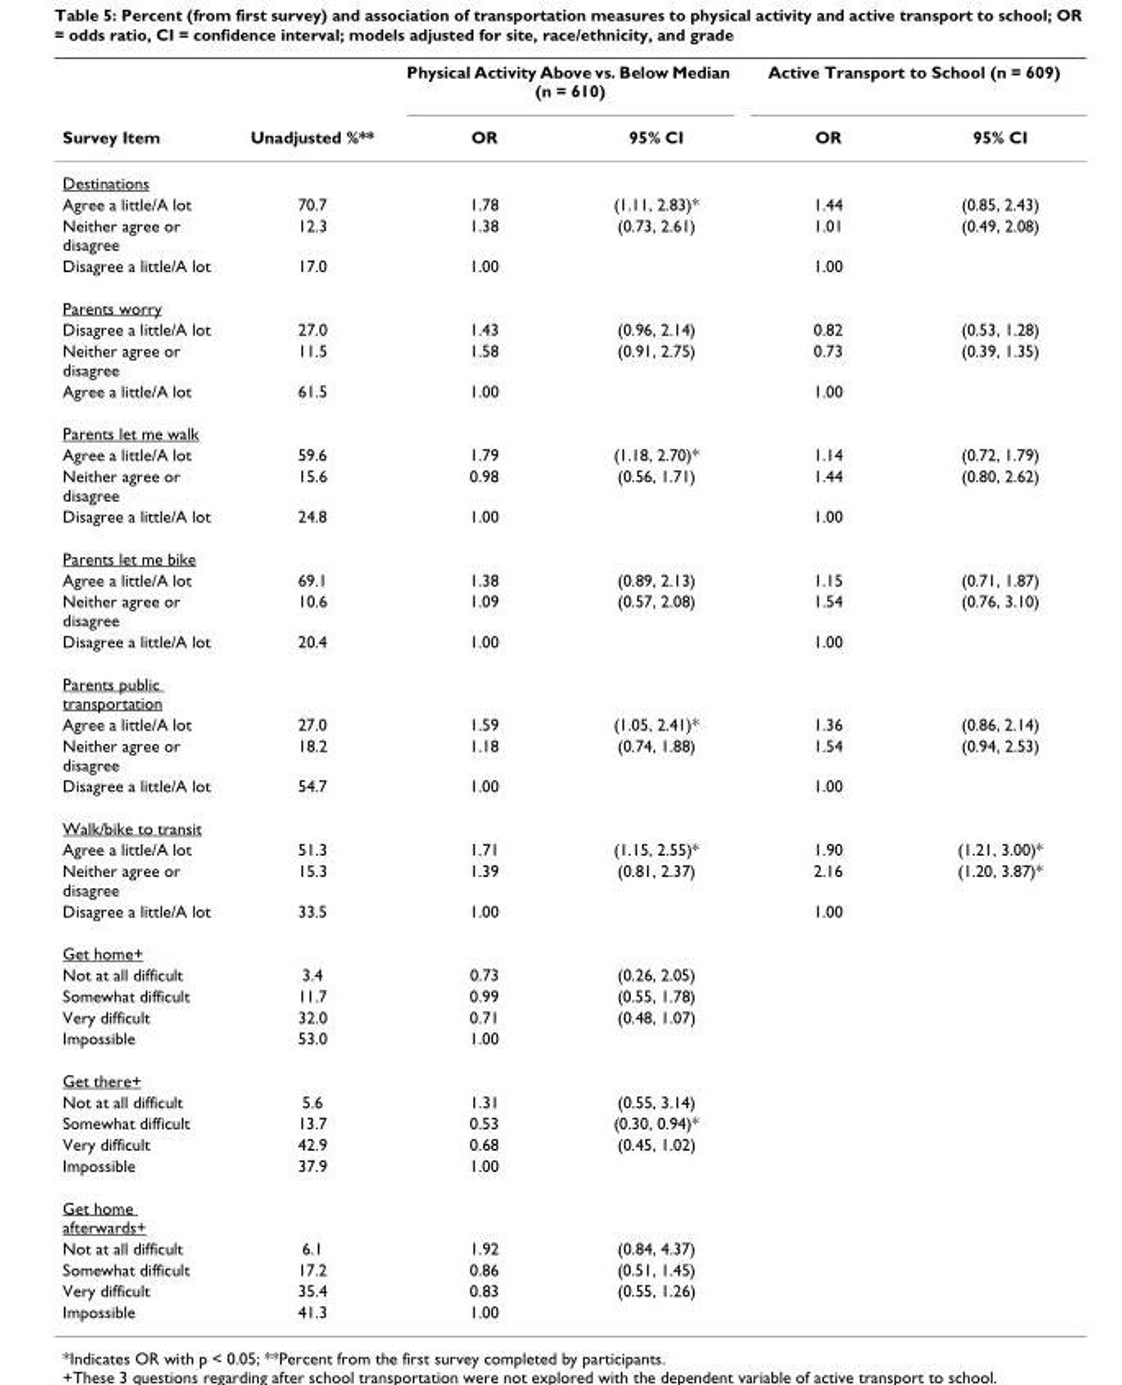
<table><thead><tr><td rowspan="2">Survey Item</td><td rowspan="2">Unadjusted %**</td><td colspan="2">Physical Activity Above vs. Below Median (n = 610)</td><td colspan="2">Active Transport to School (n = 609)</td></tr><tr><td>OR</td><td>95% CI</td><td>OR</td><td>95% CI</td></tr></thead><tbody><tr><td colspan="6">Destinations</td></tr><tr><td>Agree a little/A lot</td><td>70.7</td><td>1.78</td><td>(1.11, 2.83)*</td><td>1.44</td><td>(0.85, 2.43)</td></tr><tr><td>Neither agree or disagree</td><td>12.3</td><td>1.38</td><td>(0.73, 2.61)</td><td>1.01</td><td>(0.49, 2.08)</td></tr><tr><td>Disagree a little/A lot</td><td>17.0</td><td>1.00</td><td></td><td>1.00</td><td></td></tr><tr><td colspan="6">Parents worry</td></tr><tr><td>Disagree a little/A lot</td><td>27.0</td><td>1.43</td><td>(0.96, 2.14)</td><td>0.82</td><td>(0.53, 1.28)</td></tr><tr><td>Neither agree or disagree</td><td>11.5</td><td>1.58</td><td>(0.91, 2.75)</td><td>0.73</td><td>(0.39, 1.35)</td></tr><tr><td>Agree a little/A lot</td><td>61.5</td><td>1.00</td><td></td><td>1.00</td><td></td></tr><tr><td colspan="6">Parents let me walk</td></tr><tr><td>Agree a little/A lot</td><td>59.6</td><td>1.79</td><td>(1.18, 2.70)*</td><td>1.14</td><td>(0.72, 1.79)</td></tr><tr><td>Neither agree or disagree</td><td>15.6</td><td>0.98</td><td>(0.56, 1.71)</td><td>1.44</td><td>(0.80, 2.62)</td></tr><tr><td>Disagree a little/A lot</td><td>24.8</td><td>1.00</td><td></td><td>1.00</td><td></td></tr><tr><td colspan="6">Parents let me bike</td></tr><tr><td>Agree a little/A lot</td><td>69.1</td><td>1.38</td><td>(0.89, 2.13)</td><td>1.15</td><td>(0.71, 1.87)</td></tr><tr><td>Neither agree or disagree</td><td>10.6</td><td>1.09</td><td>(0.57, 2.08)</td><td>1.54</td><td>(0.76, 3.10)</td></tr><tr><td>Disagree a little/A lot</td><td>20.4</td><td>1.00</td><td></td><td>1.00</td><td></td></tr><tr><td colspan="6">Parents public transportation</td></tr><tr><td>Agree a little/A lot</td><td>27.0</td><td>1.59</td><td>(1.05, 2.41)*</td><td>1.36</td><td>(0.86, 2.14)</td></tr><tr><td>Neither agree or disagree</td><td>18.2</td><td>1.18</td><td>(0.74, 1.88)</td><td>1.54</td><td>(0.94, 2.53)</td></tr><tr><td>Disagree a little/A lot</td><td>54.7</td><td>1.00</td><td></td><td>1.00</td><td></td></tr><tr><td colspan="6">Walk/bike to transit</td></tr><tr><td>Agree a little/A lot</td><td>51.3</td><td>1.71</td><td>(1.15, 2.55)*</td><td>1.90</td><td>(1.21, 3.00)*</td></tr><tr><td>Neither agree or disagree</td><td>15.3</td><td>1.39</td><td>(0.81, 2.37)</td><td>2.16</td><td>(1.20, 3.87)*</td></tr><tr><td>Disagree a little/A lot</td><td>33.5</td><td>1.00</td><td></td><td>1.00</td><td></td></tr><tr><td colspan="6">Get home+</td></tr><tr><td>Not at all difficult</td><td>3.4</td><td>0.73</td><td>(0.26, 2.05)</td><td></td><td></td></tr><tr><td>Somewhat difficult</td><td>11.7</td><td>0.99</td><td>(0.55, 1.78)</td><td></td><td></td></tr><tr><td>Very difficult</td><td>32.0</td><td>0.71</td><td>(0.48, 1.07)</td><td></td><td></td></tr><tr><td>Impossible</td><td>53.0</td><td>1.00</td><td></td><td></td><td></td></tr><tr><td colspan="6">Get there+</td></tr><tr><td>Not at all difficult</td><td>5.6</td><td>1.31</td><td>(0.55, 3.14)</td><td></td><td></td></tr><tr><td>Somewhat difficult</td><td>13.7</td><td>0.53</td><td>(0.30, 0.94)*</td><td></td><td></td></tr><tr><td>Very difficult</td><td>42.9</td><td>0.68</td><td>(0.45, 1.02)</td><td></td><td></td></tr><tr><td>Impossible</td><td>37.9</td><td>1.00</td><td></td><td></td><td></td></tr><tr><td colspan="6">Get home afterwards+</td></tr><tr><td>Not at all difficult</td><td>6.1</td><td>1.92</td><td>(0.84, 4.37)</td><td></td><td></td></tr><tr><td>Somewhat difficult</td><td>17.2</td><td>0.86</td><td>(0.51, 1.45)</td><td></td><td></td></tr><tr><td>Very difficult</td><td>35.4</td><td>0.83</td><td>(0.55, 1.26)</td><td></td><td></td></tr><tr><td>Impossible</td><td>41.3</td><td>1.00</td><td></td><td></td><td></td></tr></tbody></table>